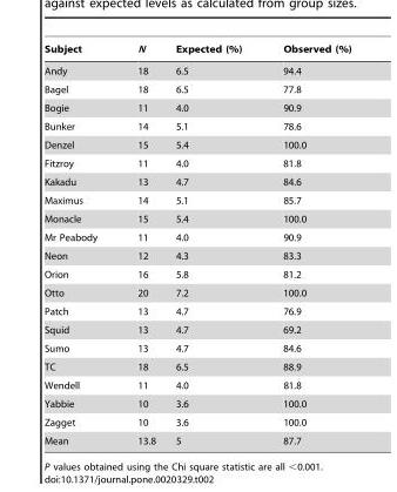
<table><thead><tr><td>Subject</td><td>N</td><td>Expected (%)</td><td>Observed (%)</td></tr></thead><tbody><tr><td>Andy</td><td>18</td><td>6.5</td><td>94.4</td></tr><tr><td>Bagel</td><td>18</td><td>6.5</td><td>77.8</td></tr><tr><td>Bogie</td><td>11</td><td>4.0</td><td>90.9</td></tr><tr><td>Bunker</td><td>14</td><td>5.1</td><td>78.6</td></tr><tr><td>Denzel</td><td>15</td><td>5.4</td><td>100.0</td></tr><tr><td>Fitzroy</td><td>11</td><td>4.0</td><td>81.8</td></tr><tr><td>Kakadu</td><td>13</td><td>4.7</td><td>84.6</td></tr><tr><td>Maximus</td><td>14</td><td>5.1</td><td>85.7</td></tr><tr><td>Monacle</td><td>15</td><td>5.4</td><td>100.0</td></tr><tr><td>Mr Peabody</td><td>11</td><td>4.0</td><td>90.9</td></tr><tr><td>Neon</td><td>12</td><td>4.3</td><td>83.3</td></tr><tr><td>Orion</td><td>16</td><td>5.8</td><td>81.2</td></tr><tr><td>Otto</td><td>20</td><td>7.2</td><td>100.0</td></tr><tr><td>Patch</td><td>13</td><td>4.7</td><td>76.9</td></tr><tr><td>Squid</td><td>13</td><td>4.7</td><td>69.2</td></tr><tr><td>Sumo</td><td>13</td><td>4.7</td><td>84.6</td></tr><tr><td>TC</td><td>18</td><td>6.5</td><td>88.9</td></tr><tr><td>Wendell</td><td>11</td><td>4.0</td><td>81.8</td></tr><tr><td>Yabbie</td><td>10</td><td>3.6</td><td>100.0</td></tr><tr><td>Zagget</td><td>10</td><td>3.6</td><td>100.0</td></tr><tr><td>Mean</td><td>13.8</td><td>5</td><td>87.7</td></tr></tbody></table>